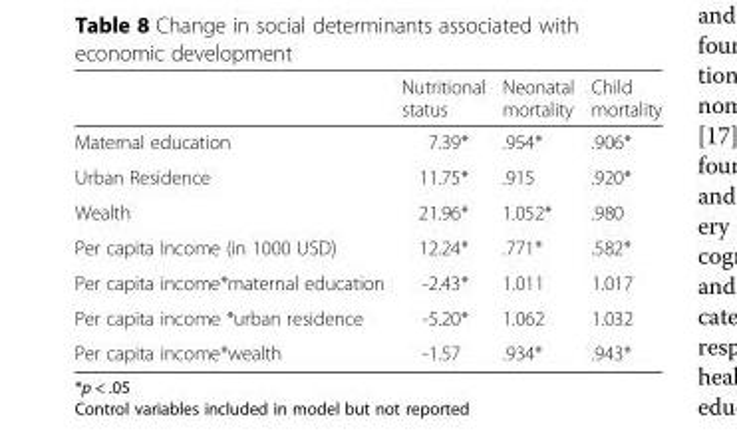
<table><thead><tr><td></td><td>Nutritional status</td><td>Neonatal mortality</td><td>Child mortality</td></tr></thead><tbody><tr><td>Maternal education</td><td>7.39*</td><td>.954*</td><td>.906*</td></tr><tr><td>Urban Residence</td><td>11.75*</td><td>.915</td><td>.920*</td></tr><tr><td>Wealth</td><td>21.96*</td><td>1.052*</td><td>.980</td></tr><tr><td>Per capita Income (in 1000 USD)</td><td>12.24*</td><td>.771*</td><td>.582*</td></tr><tr><td>Per capita income*maternal education</td><td>-2.43*</td><td>1.011</td><td>1.017</td></tr><tr><td>Per capita income *urban residence</td><td>-5.20*</td><td>1.062</td><td>1.032</td></tr><tr><td>Per capita income*wealth</td><td>-1.57</td><td>.934*</td><td>.943*</td></tr></tbody></table>